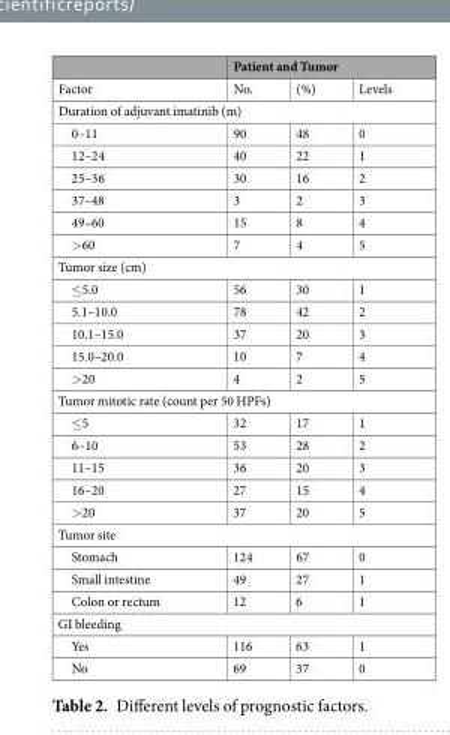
<table><thead><tr><td rowspan="2">Factor</td><td colspan="3">Patient and Tumor</td></tr><tr><td>No.</td><td>(%)</td><td>Levels</td></tr></thead><tbody><tr><td colspan="4">Duration of adjuvant imatinib (m)</td></tr><tr><td>0–11</td><td>90</td><td>48</td><td>0</td></tr><tr><td>12–24</td><td>40</td><td>22</td><td>1</td></tr><tr><td>25–36</td><td>30</td><td>16</td><td>2</td></tr><tr><td>37–48</td><td>3</td><td>2</td><td>3</td></tr><tr><td>49–60</td><td>15</td><td>8</td><td>4</td></tr><tr><td>&gt;60</td><td>7</td><td>4</td><td>5</td></tr><tr><td colspan="4">Tumor size (cm)</td></tr><tr><td>≤5.0</td><td>56</td><td>30</td><td>1</td></tr><tr><td>5.1–10.0</td><td>78</td><td>42</td><td>2</td></tr><tr><td>10.1–15.0</td><td>37</td><td>20</td><td>3</td></tr><tr><td>15.0–20.0</td><td>10</td><td>7</td><td>4</td></tr><tr><td>&gt;20</td><td>4</td><td>2</td><td>5</td></tr><tr><td colspan="4">Tumor mitotic rate (count per 50 HPFs)</td></tr><tr><td>≤5</td><td>32</td><td>17</td><td>1</td></tr><tr><td>6–10</td><td>53</td><td>28</td><td>2</td></tr><tr><td>11–15</td><td>36</td><td>20</td><td>3</td></tr><tr><td>16–20</td><td>27</td><td>15</td><td>4</td></tr><tr><td>&gt;20</td><td>37</td><td>20</td><td>5</td></tr><tr><td colspan="4">Tumor site</td></tr><tr><td>Stomach</td><td>124</td><td>67</td><td>0</td></tr><tr><td>Small intestine</td><td>49</td><td>27</td><td>1</td></tr><tr><td>Colon or rectum</td><td>12</td><td>6</td><td>1</td></tr><tr><td colspan="4">GI bleeding</td></tr><tr><td>Yes</td><td>116</td><td>63</td><td>1</td></tr><tr><td>No</td><td>69</td><td>37</td><td>0</td></tr></tbody></table>